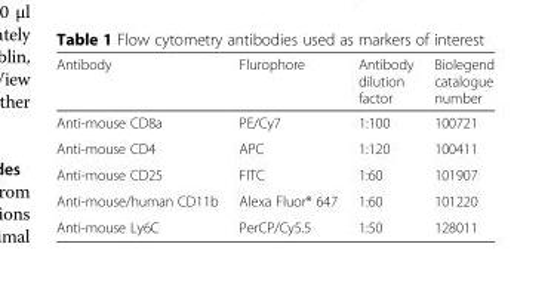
<table><thead><tr><td>Antibody</td><td>Flurophore</td><td>Antibody dilution factor</td><td>Biolegend catalogue number</td></tr></thead><tbody><tr><td>Anti-mouse CD8a</td><td>PE/Cy7</td><td>1:100</td><td>100721</td></tr><tr><td>Anti-mouse CD4</td><td>APC</td><td>1:120</td><td>100411</td></tr><tr><td>Anti-mouse CD25</td><td>FITC</td><td>1:60</td><td>101907</td></tr><tr><td>Anti-mouse/human CD11b</td><td>Alexa Fluor® 647</td><td>1:60</td><td>101220</td></tr><tr><td>Anti-mouse Ly6C</td><td>PerCP/Cy5.5</td><td>1:50</td><td>128011</td></tr></tbody></table>